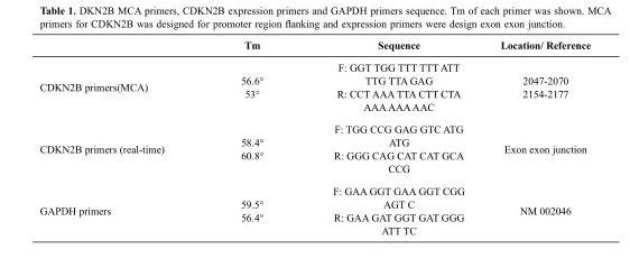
<table><thead><tr><td></td><td>Tm</td><td>Sequence</td><td>Location/ Reference</td></tr></thead><tbody><tr><td>CDKN2B primers(MCA)</td><td>56.6° 53°</td><td>F: GGT TGG TTT TTT ATT TTG TTA GAG R: CCT AAA TTA CTT CTA AAA AAA AAC</td><td>2047-2070 2154-2177</td></tr><tr><td>CDKN2B primers (real-time)</td><td>58.4° 60.8°</td><td>F: TGG CCG GAG GTC ATG ATG R: GGG CAG CAT CAT GCA CCG</td><td>Exon exon junction</td></tr><tr><td>GAPDH primers</td><td>59.5° 56.4°</td><td>F: GAA GGT GAA GGT CGG AGT C R: GAA GAT GGT GAT GGG ATT TC</td><td>NM 002046</td></tr></tbody></table>